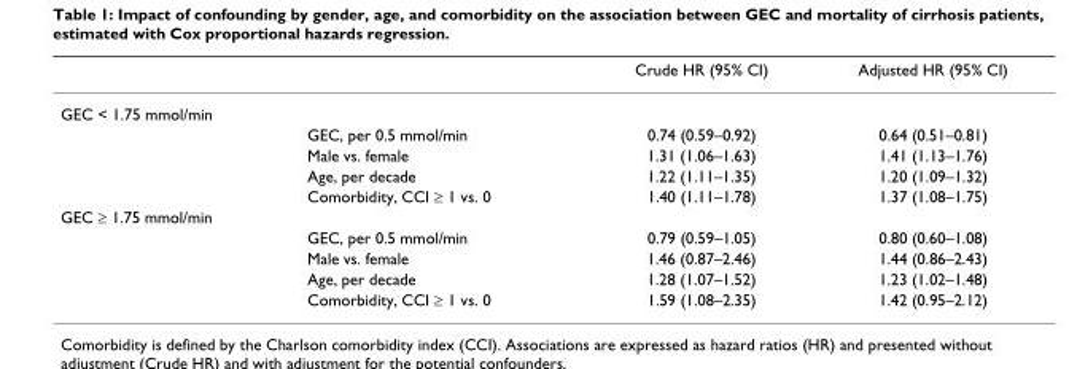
<table><thead><tr><td></td><td></td><td>Crude HR (95% CI)</td><td>Adjusted HR (95% CI)</td></tr></thead><tbody><tr><td colspan="4">GEC &lt; 1.75 mmol/min</td></tr><tr><td></td><td>GEC, per 0.5 mmol/min</td><td>0.74 (0.59–0.92)</td><td>0.64 (0.51–0.81)</td></tr><tr><td></td><td>Male vs. female</td><td>1.31 (1.06–1.63)</td><td>1.41 (1.13–1.76)</td></tr><tr><td></td><td>Age, per decade</td><td>1.22 (1.11–1.35)</td><td>1.20 (1.09–1.32)</td></tr><tr><td></td><td>Comorbidity, CCI ≥ 1 vs. 0</td><td>1.40 (1.11–1.78)</td><td>1.37 (1.08–1.75)</td></tr><tr><td colspan="4">GEC ≥ 1.75 mmol/min</td></tr><tr><td></td><td>GEC, per 0.5 mmol/min</td><td>0.79 (0.59–1.05)</td><td>0.80 (0.60–1.08)</td></tr><tr><td></td><td>Male vs. female</td><td>1.46 (0.87–2.46)</td><td>1.44 (0.86–2.43)</td></tr><tr><td></td><td>Age, per decade</td><td>1.28 (1.07–1.52)</td><td>1.23 (1.02–1.48)</td></tr><tr><td></td><td>Comorbidity, CCI ≥ 1 vs. 0</td><td>1.59 (1.08–2.35)</td><td>1.42 (0.95–2.12)</td></tr></tbody></table>